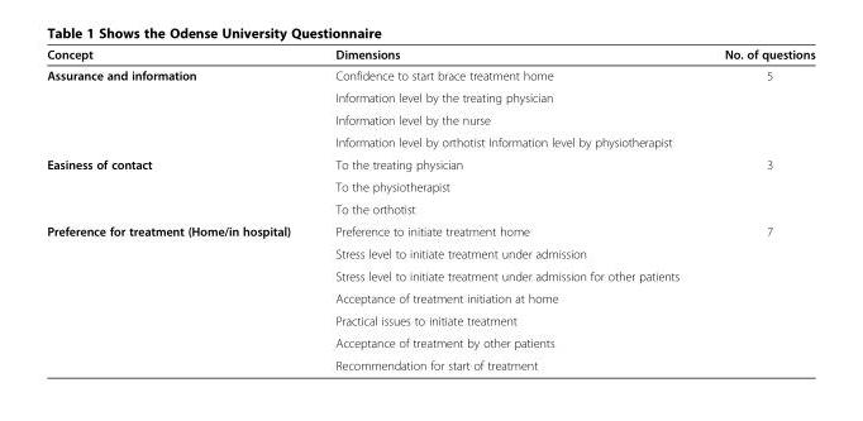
<table><thead><tr><td>Concept</td><td>Dimensions</td><td>No. of questions</td></tr></thead><tbody><tr><td rowspan="4">Assurance and information</td><td>Confidence to start brace treatment home</td><td>5</td></tr><tr><td>Information level by the treating physician</td><td></td></tr><tr><td>Information level by the nurse</td><td></td></tr><tr><td>Information level by orthotist Information level by physiotherapist</td><td></td></tr><tr><td rowspan="3">Easiness of contact</td><td>To the treating physician</td><td>3</td></tr><tr><td>To the physiotherapist</td><td></td></tr><tr><td>To the orthotist</td><td></td></tr><tr><td rowspan="7">Preference for treatment (Home/in hospital)</td><td>Preference to initiate treatment home</td><td>7</td></tr><tr><td>Stress level to initiate treatment under admission</td><td></td></tr><tr><td>Stress level to initiate treatment under admission for other patients</td><td></td></tr><tr><td>Acceptance of treatment initiation at home</td><td></td></tr><tr><td>Practical issues to initiate treatment</td><td></td></tr><tr><td>Acceptance of treatment by other patients</td><td></td></tr><tr><td>Recommendation for start of treatment</td><td></td></tr></tbody></table>